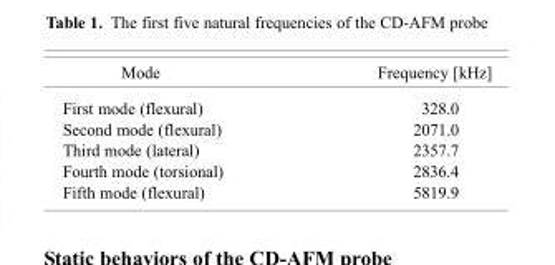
<table><thead><tr><td>Mode</td><td>Frequency [kHz]</td></tr></thead><tbody><tr><td>First mode (flexural)</td><td>328.0</td></tr><tr><td>Second mode (flexural)</td><td>2071.0</td></tr><tr><td>Third mode (lateral)</td><td>2357.7</td></tr><tr><td>Fourth mode (torsional)</td><td>2836.4</td></tr><tr><td>Fifth mode (flexural)</td><td>5819.9</td></tr></tbody></table>